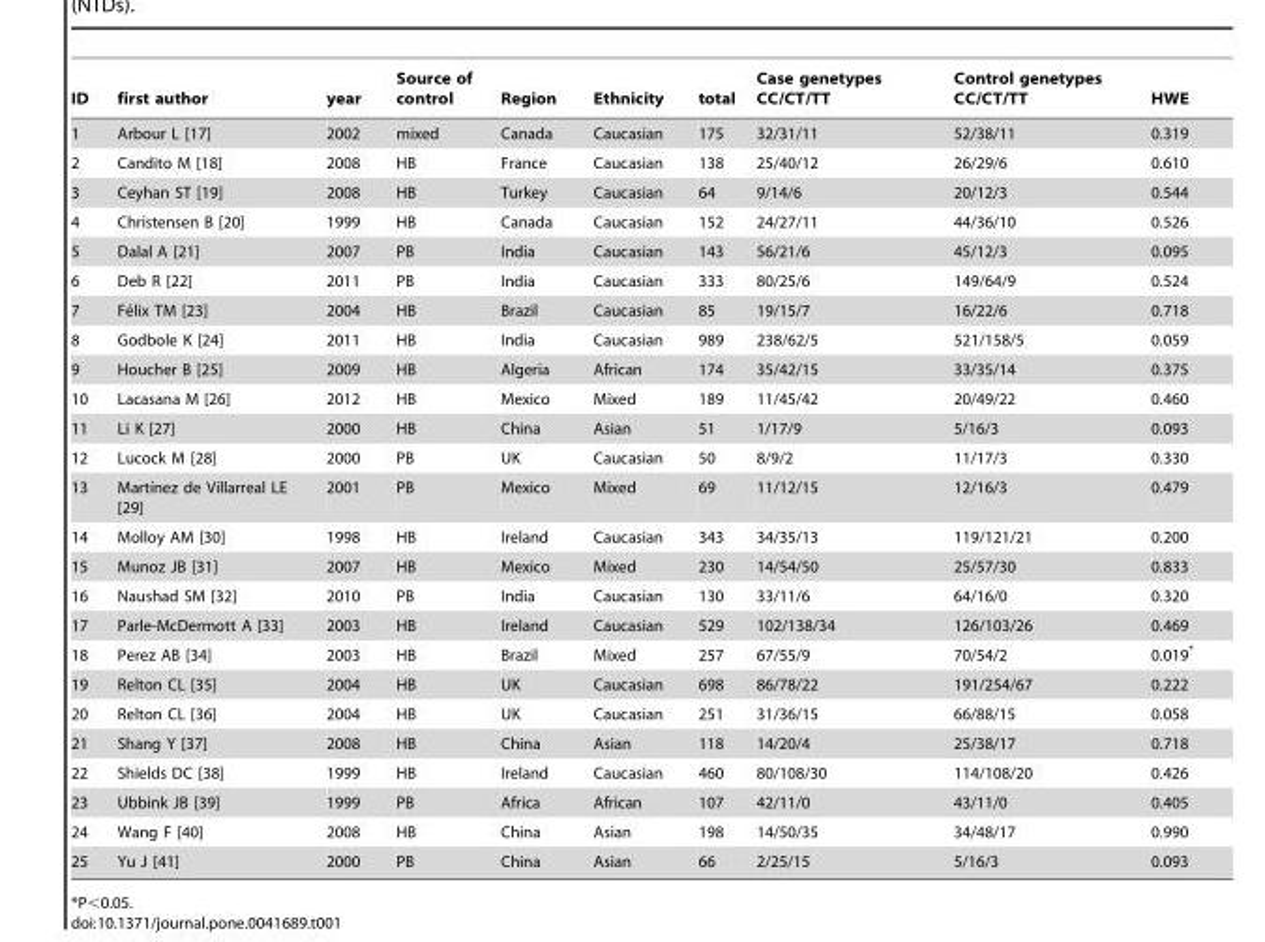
<table><thead><tr><td>ID</td><td>first author</td><td>year</td><td>Source of control</td><td>Region</td><td>Ethnicity</td><td>total</td><td>Case genetypes CC/CT/TT</td><td>Control genetypes CC/CT/TT</td><td>HWE</td></tr></thead><tbody><tr><td>1</td><td>Arbour L [17]</td><td>2002</td><td>mixed</td><td>Canada</td><td>Caucasian</td><td>175</td><td>32/31/11</td><td>52/38/11</td><td>0.319</td></tr><tr><td>2</td><td>Candito M [18]</td><td>2008</td><td>HB</td><td>France</td><td>Caucasian</td><td>138</td><td>25/40/12</td><td>26/29/6</td><td>0.610</td></tr><tr><td>3</td><td>Ceyhan ST [19]</td><td>2008</td><td>HB</td><td>Turkey</td><td>Caucasian</td><td>64</td><td>9/14/6</td><td>20/12/3</td><td>0.544</td></tr><tr><td>4</td><td>Christensen B [20]</td><td>1999</td><td>HB</td><td>Canada</td><td>Caucasian</td><td>152</td><td>24/27/11</td><td>44/36/10</td><td>0.526</td></tr><tr><td>5</td><td>Dalal A [21]</td><td>2007</td><td>PB</td><td>India</td><td>Caucasian</td><td>143</td><td>56/21/6</td><td>45/12/3</td><td>0.095</td></tr><tr><td>6</td><td>Deb R [22]</td><td>2011</td><td>PB</td><td>India</td><td>Caucasian</td><td>333</td><td>80/25/6</td><td>149/64/9</td><td>0.524</td></tr><tr><td>7</td><td>Fe´lix TM [23]</td><td>2004</td><td>HB</td><td>Brazil</td><td>Caucasian</td><td>85</td><td>19/15/7</td><td>16/22/6</td><td>0.718</td></tr><tr><td>8</td><td>Godbole K [24]</td><td>2011</td><td>HB</td><td>India</td><td>Caucasian</td><td>989</td><td>238/62/5</td><td>521/158/5</td><td>0.059</td></tr><tr><td>9</td><td>Houcher B [25]</td><td>2009</td><td>HB</td><td>Algeria</td><td>African</td><td>174</td><td>35/42/15</td><td>33/35/14</td><td>0.375</td></tr><tr><td>10</td><td>Lacasana M [26]</td><td>2012</td><td>HB</td><td>Mexico</td><td>Mixed</td><td>189</td><td>11/45/42</td><td>20/49/22</td><td>0.460</td></tr><tr><td>11</td><td>Li K [27]</td><td>2000</td><td>HB</td><td>China</td><td>Asian</td><td>51</td><td>1/17/9</td><td>5/16/3</td><td>0.093</td></tr><tr><td>12</td><td>Lucock M [28]</td><td>2000</td><td>PB</td><td>UK</td><td>Caucasian</td><td>50</td><td>8/9/2</td><td>11/17/3</td><td>0.330</td></tr><tr><td>13</td><td>Martı´nez de Villarreal LE [29]</td><td>2001</td><td>PB</td><td>Mexico</td><td>Mixed</td><td>69</td><td>11/12/15</td><td>12/16/3</td><td>0.479</td></tr><tr><td>14</td><td>Molloy AM [30]</td><td>1998</td><td>HB</td><td>Ireland</td><td>Caucasian</td><td>343</td><td>34/35/13</td><td>119/121/21</td><td>0.200</td></tr><tr><td>15</td><td>Munoz JB [31]</td><td>2007</td><td>HB</td><td>Mexico</td><td>Mixed</td><td>230</td><td>14/54/50</td><td>25/57/30</td><td>0.833</td></tr><tr><td>16</td><td>Naushad SM [32]</td><td>2010</td><td>PB</td><td>India</td><td>Caucasian</td><td>130</td><td>33/11/6</td><td>64/16/0</td><td>0.320</td></tr><tr><td>17</td><td>Parle-McDermott A [33]</td><td>2003</td><td>HB</td><td>Ireland</td><td>Caucasian</td><td>529</td><td>102/138/34</td><td>126/103/26</td><td>0.469</td></tr><tr><td>18</td><td>Perez AB [34]</td><td>2003</td><td>HB</td><td>Brazil</td><td>Mixed</td><td>257</td><td>67/55/9</td><td>70/54/2</td><td>0.019*</td></tr><tr><td>19</td><td>Relton CL [35]</td><td>2004</td><td>HB</td><td>UK</td><td>Caucasian</td><td>698</td><td>86/78/22</td><td>191/254/67</td><td>0.222</td></tr><tr><td>20</td><td>Relton CL [36]</td><td>2004</td><td>HB</td><td>UK</td><td>Caucasian</td><td>251</td><td>31/36/15</td><td>66/88/15</td><td>0.058</td></tr><tr><td>21</td><td>Shang Y [37]</td><td>2008</td><td>HB</td><td>China</td><td>Asian</td><td>118</td><td>14/20/4</td><td>25/38/17</td><td>0.718</td></tr><tr><td>22</td><td>Shields DC [38]</td><td>1999</td><td>HB</td><td>Ireland</td><td>Caucasian</td><td>460</td><td>80/108/30</td><td>114/108/20</td><td>0.426</td></tr><tr><td>23</td><td>Ubbink JB [39]</td><td>1999</td><td>PB</td><td>Africa</td><td>African</td><td>107</td><td>42/11/0</td><td>43/11/0</td><td>0.405</td></tr><tr><td>24</td><td>Wang F [40]</td><td>2008</td><td>HB</td><td>China</td><td>Asian</td><td>198</td><td>14/50/35</td><td>34/48/17</td><td>0.990</td></tr><tr><td>25</td><td>Yu J [41]</td><td>2000</td><td>PB</td><td>China</td><td>Asian</td><td>66</td><td>2/25/15</td><td>5/16/3</td><td>0.093</td></tr></tbody></table>